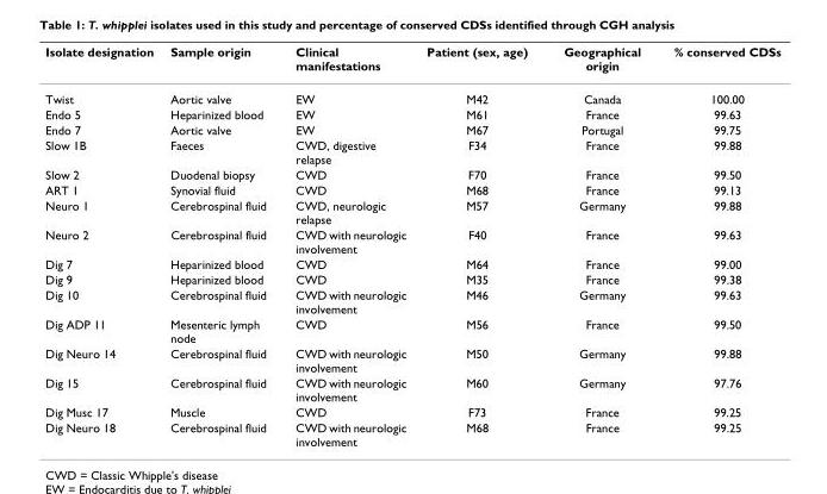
<table><thead><tr><td>Isolate designation</td><td>Sample origin</td><td>Clinical manifestations</td><td>Patient (sex, age)</td><td>Geographical origin</td><td>% conserved CDSs</td></tr></thead><tbody><tr><td>Twist</td><td>Aortic valve</td><td>EW</td><td>M42</td><td>Canada</td><td>100.00</td></tr><tr><td>Endo 5</td><td>Heparinized blood</td><td>EW</td><td>M61</td><td>France</td><td>99.63</td></tr><tr><td>Endo 7</td><td>Aortic valve</td><td>EW</td><td>M67</td><td>Portugal</td><td>99.75</td></tr><tr><td>Slow 1B</td><td>Faeces</td><td>CWD, digestive relapse</td><td>F34</td><td>France</td><td>99.88</td></tr><tr><td>Slow 2</td><td>Duodenal biopsy</td><td>CWD</td><td>F70</td><td>France</td><td>99.50</td></tr><tr><td>ART 1</td><td>Synovial fluid</td><td>CWD</td><td>M68</td><td>France</td><td>99.13</td></tr><tr><td>Neuro 1</td><td>Cerebrospinal fluid</td><td>CWD, neurologic relapse</td><td>M57</td><td>Germany</td><td>99.88</td></tr><tr><td>Neuro 2</td><td>Cerebrospinal fluid</td><td>CWD with neurologic involvement</td><td>F40</td><td>France</td><td>99.63</td></tr><tr><td>Dig 7</td><td>Heparinized blood</td><td>CWD</td><td>M64</td><td>France</td><td>99.00</td></tr><tr><td>Dig 9</td><td>Heparinized blood</td><td>CWD</td><td>M35</td><td>France</td><td>99.38</td></tr><tr><td>Dig 10</td><td>Cerebrospinal fluid</td><td>CWD with neurologic involvement</td><td>M46</td><td>Germany</td><td>99.63</td></tr><tr><td>Dig ADP 11</td><td>Mesenteric lymph node</td><td>CWD</td><td>M56</td><td>France</td><td>99.50</td></tr><tr><td>Dig Neuro 14</td><td>Cerebrospinal fluid</td><td>CWD with neurologic involvement</td><td>M50</td><td>Germany</td><td>99.88</td></tr><tr><td>Dig 15</td><td>Cerebrospinal fluid</td><td>CWD with neurologic involvement</td><td>M60</td><td>Germany</td><td>97.76</td></tr><tr><td>Dig Musc 17</td><td>Muscle</td><td>CWD</td><td>F73</td><td>France</td><td>99.25</td></tr><tr><td>Dig Neuro 18</td><td>Cerebrospinal fluid</td><td>CWD with neurologic involvement</td><td>M68</td><td>France</td><td>99.25</td></tr></tbody></table>